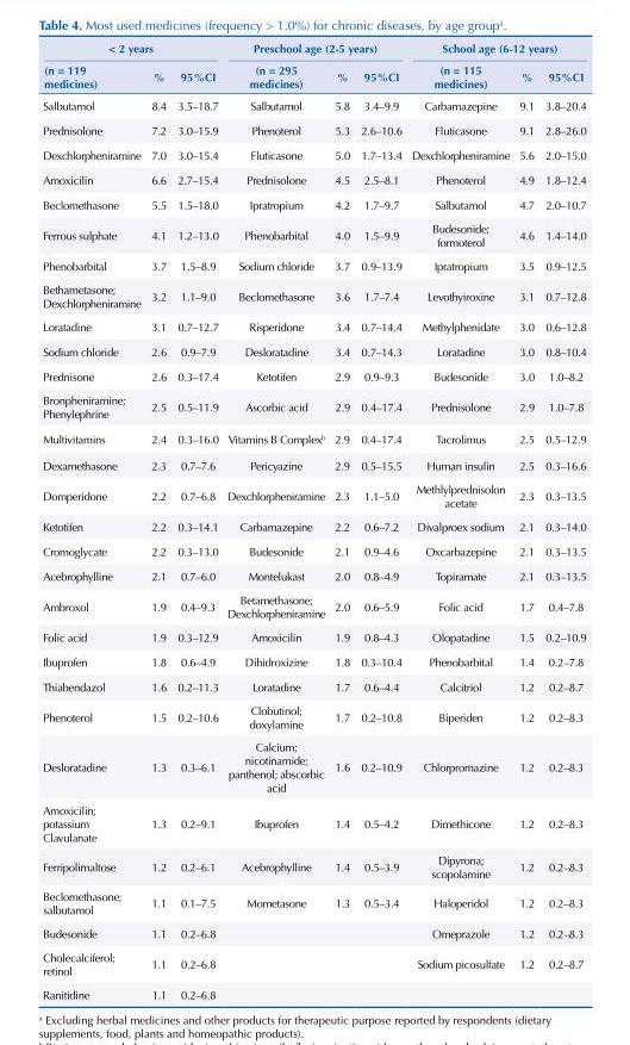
<table><thead><tr><td colspan="3">&lt; 2 years</td><td colspan="3">Preschool age (2-5 years)</td><td colspan="3">School age (6-12 years)</td></tr><tr><td>(n = 119 medicines)</td><td>%</td><td>95%CI</td><td>(n = 295 medicines)</td><td>%</td><td>95%CI</td><td>(n = 115 medicines)</td><td>%</td><td>95%CI</td></tr></thead><tbody><tr><td>Salbutamol</td><td>8.4</td><td>3.5–18.7</td><td>Salbutamol</td><td>5.8</td><td>3.4–9.9</td><td>Carbamazepine</td><td>9.1</td><td>3.8–20.4</td></tr><tr><td>Prednisolone</td><td>7.2</td><td>3.0–15.9</td><td>Phenoterol</td><td>5.3</td><td>2.6–10.6</td><td>Fluticasone</td><td>9.1</td><td>2.8–26.0</td></tr><tr><td>Dexchlorpheniramine</td><td>7.0</td><td>3.0–15.4</td><td>Fluticasone</td><td>5.0</td><td>1.7–13.4</td><td>Dexchlorpheniramine</td><td>5.6</td><td>2.0–15.0</td></tr><tr><td>Amoxicilin</td><td>6.6</td><td>2.7–15.4</td><td>Prednisolone</td><td>4.5</td><td>2.5–8.1</td><td>Phenoterol</td><td>4.9</td><td>1.8–12.4</td></tr><tr><td>Beclomethasone</td><td>5.5</td><td>1.5–18.0</td><td>Ipratropium</td><td>4.2</td><td>1.7–9.7</td><td>Salbutamol</td><td>4.7</td><td>2.0–10.7</td></tr><tr><td>Ferrous sulphate</td><td>4.1</td><td>1.2–13.0</td><td>Phenobarbital</td><td>4.0</td><td>1.5–9.9</td><td>Budesonide; formoterol</td><td>4.6</td><td>1.4–14.0</td></tr><tr><td>Phenobarbital</td><td>3.7</td><td>1.5–8.9</td><td>Sodium chloride</td><td>3.7</td><td>0.9–13.9</td><td>Ipratropium</td><td>3.5</td><td>0.9–12.5</td></tr><tr><td>Bethametasone; Dexchlorpheniramine</td><td>3.2</td><td>1.1–9.0</td><td>Beclomethasone</td><td>3.6</td><td>1.7–7.4</td><td>Levothyiroxine</td><td>3.1</td><td>0.7–12.8</td></tr><tr><td>Loratadine</td><td>3.1</td><td>0.7–12.7</td><td>Risperidone</td><td>3.4</td><td>0.7–14.4</td><td>Methylphenidate</td><td>3.0</td><td>0.6–12.8</td></tr><tr><td>Sodium chloride</td><td>2.6</td><td>0.9–7.9</td><td>Desloratadine</td><td>3.4</td><td>0.7–14.3</td><td>Loratadine</td><td>3.0</td><td>0.8–10.4</td></tr><tr><td>Prednisone</td><td>2.6</td><td>0.3–17.4</td><td>Ketotifen</td><td>2.9</td><td>0.9–9.3</td><td>Budesonide</td><td>3.0</td><td>1.0–8.2</td></tr><tr><td>Bronpheniramine; Phenylephrine</td><td>2.5</td><td>0.5–11.9</td><td>Ascorbic acid</td><td>2.9</td><td>0.4–17.4</td><td>Prednisolone</td><td>2.9</td><td>1.0–7.8</td></tr><tr><td>Multivitamins</td><td>2.4</td><td>0.3–16.0</td><td>Vitamins B Complex<sup>b</sup></td><td>2.9</td><td>0.4–17.4</td><td>Tacrolimus</td><td>2.5</td><td>0.5–12.9</td></tr><tr><td>Dexamethasone</td><td>2.3</td><td>0.7–7.6</td><td>Pericyazine</td><td>2.9</td><td>0.5–15.5</td><td>Human insulin</td><td>2.5</td><td>0.3–16.6</td></tr><tr><td>Domperidone</td><td>2.2</td><td>0.7–6.8</td><td>Dexchlorpheniramine</td><td>2.3</td><td>1.1–5.0</td><td>Methlylprednisolon acetate</td><td>2.3</td><td>0.3–13.5</td></tr><tr><td>Ketotifen</td><td>2.2</td><td>0.3–14.1</td><td>Carbamazepine</td><td>2.2</td><td>0.6–7.2</td><td>Divalproex sodium</td><td>2.1</td><td>0.3–14.0</td></tr><tr><td>Cromoglycate</td><td>2.2</td><td>0.3–13.0</td><td>Budesonide</td><td>2.1</td><td>0.9–4.6</td><td>Oxcarbazepine</td><td>2.1</td><td>0.3–13.5</td></tr><tr><td>Acebrophylline</td><td>2.1</td><td>0.7–6.0</td><td>Montelukast</td><td>2.0</td><td>0.8–4.9</td><td>Topiramate</td><td>2.1</td><td>0.3–13.5</td></tr><tr><td>Ambroxol</td><td>1.9</td><td>0.4–9.3</td><td>Betamethasone; Dexchlorpheniramine</td><td>2.0</td><td>0.6–5.9</td><td>Folic acid</td><td>1.7</td><td>0.4–7.8</td></tr><tr><td>Folic acid</td><td>1.9</td><td>0.3–12.9</td><td>Amoxicilin</td><td>1.9</td><td>0.8–4.3</td><td>Olopatadine</td><td>1.5</td><td>0.2–10.9</td></tr><tr><td>Ibuprofen</td><td>1.8</td><td>0.6–4.9</td><td>Dihidroxizine</td><td>1.8</td><td>0.3–10.4</td><td>Phenobarbital</td><td>1.4</td><td>0.2–7.8</td></tr><tr><td>Thiabendazol</td><td>1.6</td><td>0.2–11.3</td><td>Loratadine</td><td>1.7</td><td>0.6–4.4</td><td>Calcitriol</td><td>1.2</td><td>0.2–8.7</td></tr><tr><td>Phenoterol</td><td>1.5</td><td>0.2–10.6</td><td>Clobutinol; doxylamine</td><td>1.7</td><td>0.2–10.8</td><td>Biperiden</td><td>1.2</td><td>0.2–8.3</td></tr><tr><td>Desloratadine</td><td>1.3</td><td>0.3–6.1</td><td>Calcium; nicotinamide; panthenol; abscorbic acid</td><td>1.6</td><td>0.2–10.9</td><td>Chlorpromazine</td><td>1.2</td><td>0.2–8.3</td></tr><tr><td>Amoxicilin; potassium Clavulanate</td><td>1.3</td><td>0.2–9.1</td><td>Ibuprofen</td><td>1.4</td><td>0.5–4.2</td><td>Dimethicone</td><td>1.2</td><td>0.2–8.3</td></tr><tr><td>Ferripolimaltose</td><td>1.2</td><td>0.2–6.1</td><td>Acebrophylline</td><td>1.4</td><td>0.5–3.9</td><td>Dipyrona; scopolamine</td><td>1.2</td><td>0.2–8.3</td></tr><tr><td>Beclomethasone; salbutamol</td><td>1.1</td><td>0.1–7.5</td><td>Mometasone</td><td>1.3</td><td>0.5–3.4</td><td>Haloperidol</td><td>1.2</td><td>0.2–8.3</td></tr><tr><td>Budesonide</td><td>1.1</td><td>0.2–6.8</td><td></td><td></td><td></td><td>Omeprazole</td><td>1.2</td><td>0.2–8.3</td></tr><tr><td>Cholecalciferol; retinol</td><td>1.1</td><td>0.2–6.8</td><td></td><td></td><td></td><td>Sodium picosulfate</td><td>1.2</td><td>0.2–8.7</td></tr><tr><td>Ranitidine</td><td>1.1</td><td>0.2–6.8</td><td></td><td></td><td></td><td></td><td></td><td></td></tr></tbody></table>